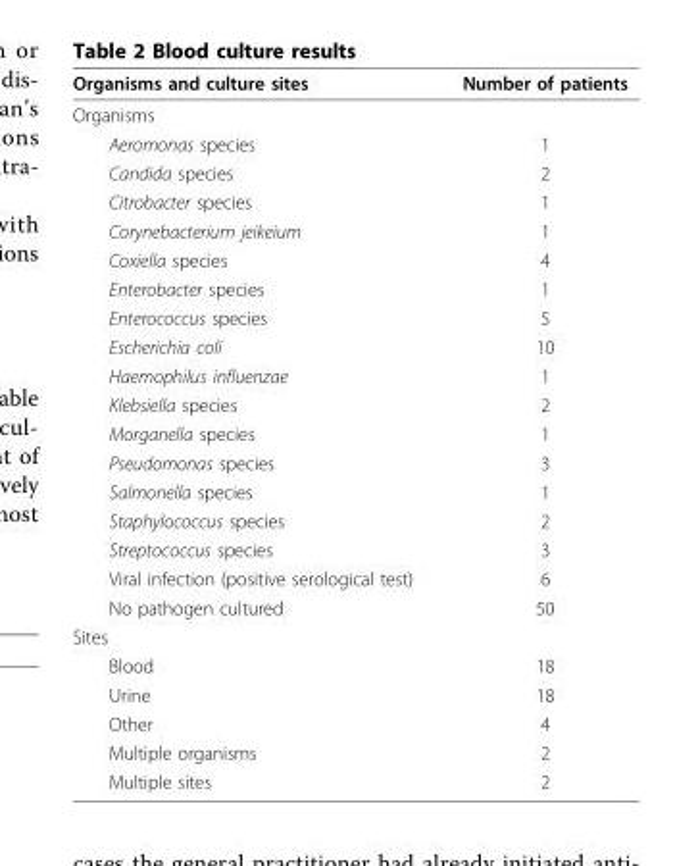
<table><thead><tr><td>Organisms and culture sites</td><td>Number of patients</td></tr></thead><tbody><tr><td colspan="2">Organisms</td></tr><tr><td>Aeromonas species</td><td>1</td></tr><tr><td>Candida species</td><td>2</td></tr><tr><td>Citrobacter species</td><td>1</td></tr><tr><td>Corynebacterium jeikeium</td><td>1</td></tr><tr><td>Coxiella species</td><td>4</td></tr><tr><td>Enterobacter species</td><td>1</td></tr><tr><td>Enterococcus species</td><td>5</td></tr><tr><td>Escherichia coli</td><td>10</td></tr><tr><td>Haemophilus influenzae</td><td>1</td></tr><tr><td>Klebsiella species</td><td>2</td></tr><tr><td>Morganella species</td><td>1</td></tr><tr><td>Pseudomonas species</td><td>3</td></tr><tr><td>Salmonella species</td><td>1</td></tr><tr><td>Staphylococcus species</td><td>2</td></tr><tr><td>Streptococcus species</td><td>3</td></tr><tr><td>Viral infection (positive serological test)</td><td>6</td></tr><tr><td>No pathogen cultured</td><td>50</td></tr><tr><td colspan="2">Sites</td></tr><tr><td>Blood</td><td>18</td></tr><tr><td>Urine</td><td>18</td></tr><tr><td>Other</td><td>4</td></tr><tr><td>Multiple organisms</td><td>2</td></tr><tr><td>Multiple sites</td><td>2</td></tr></tbody></table>